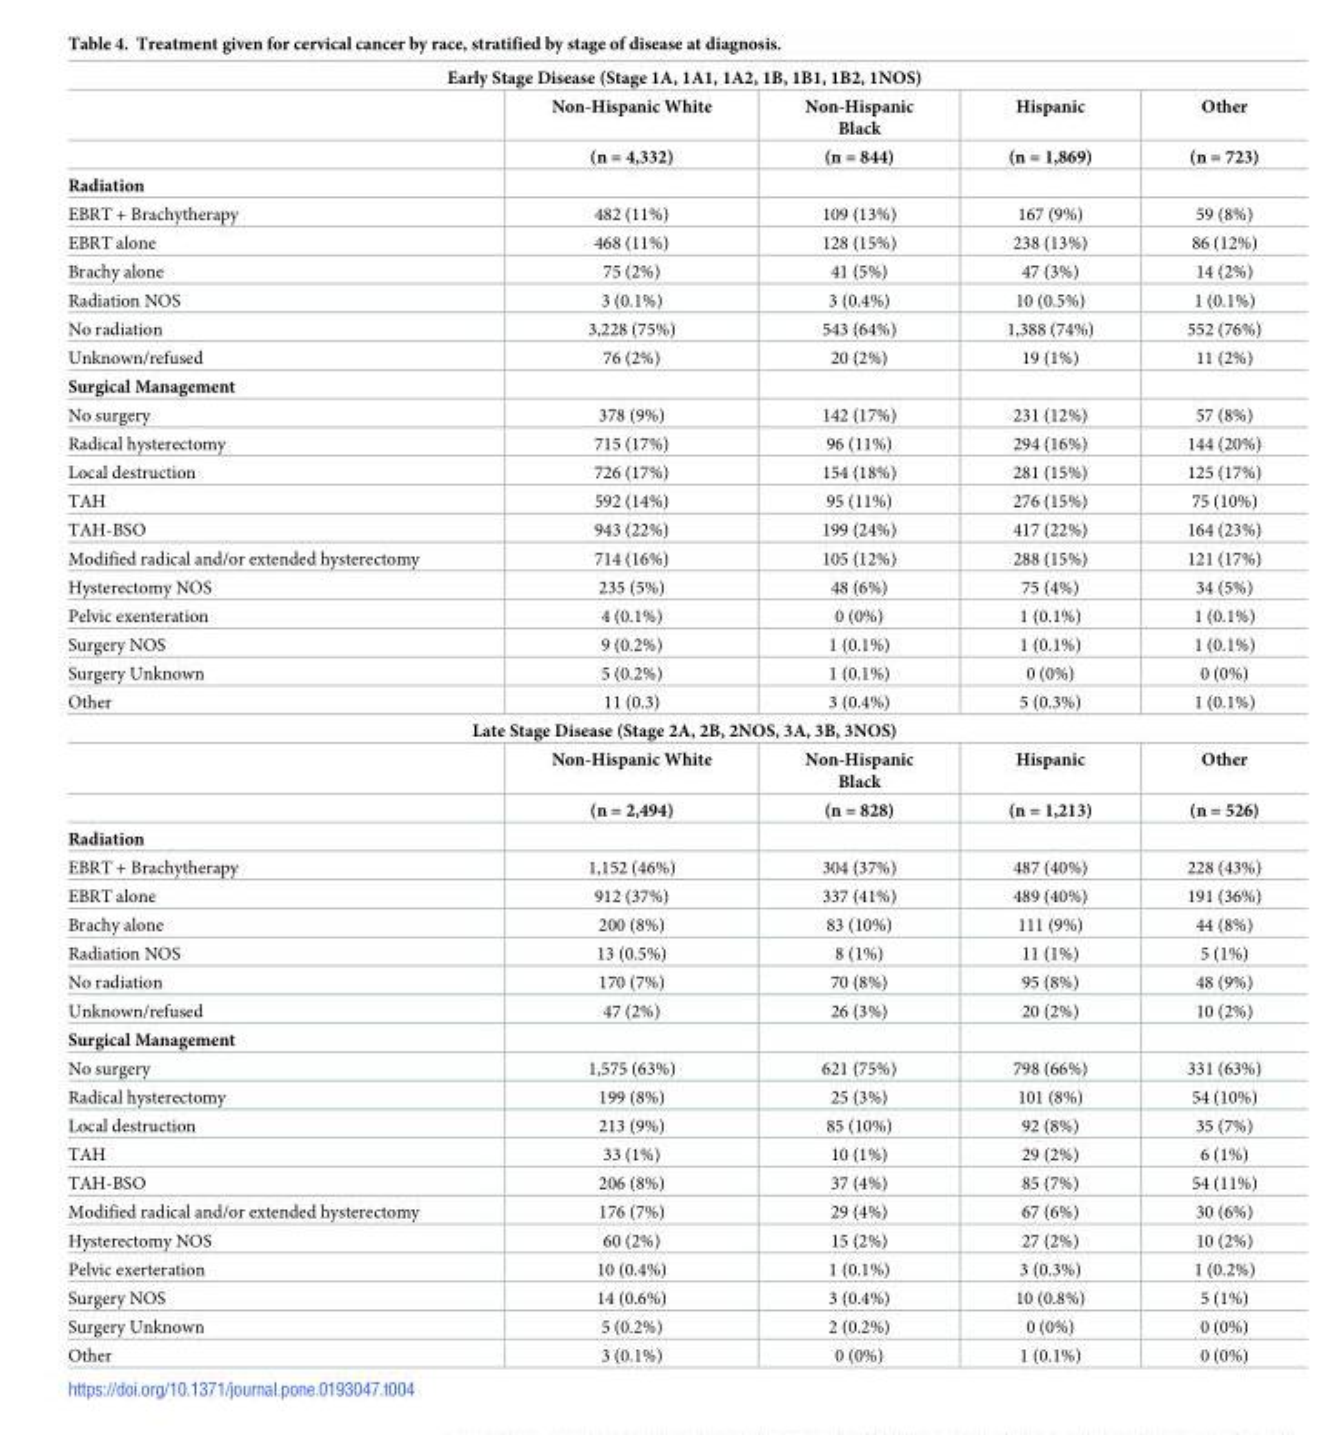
<table><tbody><tr><td colspan="5">Early Stage Disease (Stage 1A, 1A1, 1A2, 1B, 1B1, 1B2, 1NOS)</td></tr><tr><td></td><td>Non-Hispanic White</td><td>Non-Hispanic Black</td><td>Hispanic</td><td>Other</td></tr><tr><td></td><td>(n = 4,332)</td><td>(n = 844)</td><td>(n = 1,869)</td><td>(n = 723)</td></tr><tr><td colspan="5">Radiation</td></tr><tr><td>EBRT + Brachytherapy</td><td>482 (11%)</td><td>109 (13%)</td><td>167 (9%)</td><td>59 (8%)</td></tr><tr><td>EBRT alone</td><td>468 (11%)</td><td>128 (15%)</td><td>238 (13%)</td><td>86 (12%)</td></tr><tr><td>Brachy alone</td><td>75 (2%)</td><td>41 (5%)</td><td>47 (3%)</td><td>14 (2%)</td></tr><tr><td>Radiation NOS</td><td>3 (0.1%)</td><td>3 (0.4%)</td><td>10 (0.5%)</td><td>1 (0.1%)</td></tr><tr><td>No radiation</td><td>3,228 (75%)</td><td>543 (64%)</td><td>1,388 (74%)</td><td>552 (76%)</td></tr><tr><td>Unknown/refused</td><td>76 (2%)</td><td>20 (2%)</td><td>19 (1%)</td><td>11 (2%)</td></tr><tr><td colspan="5">Surgical Management</td></tr><tr><td>No surgery</td><td>378 (9%)</td><td>142 (17%)</td><td>231 (12%)</td><td>57 (8%)</td></tr><tr><td>Radical hysterectomy</td><td>715 (17%)</td><td>96 (11%)</td><td>294 (16%)</td><td>144 (20%)</td></tr><tr><td>Local destruction</td><td>726 (17%)</td><td>154 (18%)</td><td>281 (15%)</td><td>125 (17%)</td></tr><tr><td>TAH</td><td>592 (14%)</td><td>95 (11%)</td><td>276 (15%)</td><td>75 (10%)</td></tr><tr><td>TAH-BSO</td><td>943 (22%)</td><td>199 (24%)</td><td>417 (22%)</td><td>164 (23%)</td></tr><tr><td>Modified radical and/or extended hysterectomy</td><td>714 (16%)</td><td>105 (12%)</td><td>288 (15%)</td><td>121 (17%)</td></tr><tr><td>Hysterectomy NOS</td><td>235 (5%)</td><td>48 (6%)</td><td>75 (4%)</td><td>34 (5%)</td></tr><tr><td>Pelvic exenteration</td><td>4 (0.1%)</td><td>0 (0%)</td><td>1 (0.1%)</td><td>1 (0.1%)</td></tr><tr><td>Surgery NOS</td><td>9 (0.2%)</td><td>1 (0.1%)</td><td>1 (0.1%)</td><td>1 (0.1%)</td></tr><tr><td>Surgery Unknown</td><td>5 (0.2%)</td><td>1 (0.1%)</td><td>0 (0%)</td><td>0 (0%)</td></tr><tr><td>Other</td><td>11 (0.3)</td><td>3 (0.4%)</td><td>5 (0.3%)</td><td>1 (0.1%)</td></tr><tr><td colspan="5">Late Stage Disease (Stage 2A, 2B, 2NOS, 3A, 3B, 3NOS)</td></tr><tr><td></td><td>Non-Hispanic White</td><td>Non-Hispanic Black</td><td>Hispanic</td><td>Other</td></tr><tr><td></td><td>(n = 2,494)</td><td>(n = 828)</td><td>(n = 1,213)</td><td>(n = 526)</td></tr><tr><td colspan="5">Radiation</td></tr><tr><td>EBRT + Brachytherapy</td><td>1,152 (46%)</td><td>304 (37%)</td><td>487 (40%)</td><td>228 (43%)</td></tr><tr><td>EBRT alone</td><td>912 (37%)</td><td>337 (41%)</td><td>489 (40%)</td><td>191 (36%)</td></tr><tr><td>Brachy alone</td><td>200 (8%)</td><td>83 (10%)</td><td>111 (9%)</td><td>44 (8%)</td></tr><tr><td>Radiation NOS</td><td>13 (0.5%)</td><td>8 (1%)</td><td>11 (1%)</td><td>5 (1%)</td></tr><tr><td>No radiation</td><td>170 (7%)</td><td>70 (8%)</td><td>95 (8%)</td><td>48 (9%)</td></tr><tr><td>Unknown/refused</td><td>47 (2%)</td><td>26 (3%)</td><td>20 (2%)</td><td>10 (2%)</td></tr><tr><td colspan="5">Surgical Management</td></tr><tr><td>No surgery</td><td>1,575 (63%)</td><td>621 (75%)</td><td>798 (66%)</td><td>331 (63%)</td></tr><tr><td>Radical hysterectomy</td><td>199 (8%)</td><td>25 (3%)</td><td>101 (8%)</td><td>54 (10%)</td></tr><tr><td>Local destruction</td><td>213 (9%)</td><td>85 (10%)</td><td>92 (8%)</td><td>35 (7%)</td></tr><tr><td>TAH</td><td>33 (1%)</td><td>10 (1%)</td><td>29 (2%)</td><td>6 (1%)</td></tr><tr><td>TAH-BSO</td><td>206 (8%)</td><td>37 (4%)</td><td>85 (7%)</td><td>54 (11%)</td></tr><tr><td>Modified radical and/or extended hysterectomy</td><td>176 (7%)</td><td>29 (4%)</td><td>67 (6%)</td><td>30 (6%)</td></tr><tr><td>Hysterectomy NOS</td><td>60 (2%)</td><td>15 (2%)</td><td>27 (2%)</td><td>10 (2%)</td></tr><tr><td>Pelvic exerteration</td><td>10 (0.4%)</td><td>1 (0.1%)</td><td>3 (0.3%)</td><td>1 (0.2%)</td></tr><tr><td>Surgery NOS</td><td>14 (0.6%)</td><td>3 (0.4%)</td><td>10 (0.8%)</td><td>5 (1%)</td></tr><tr><td>Surgery Unknown</td><td>5 (0.2%)</td><td>2 (0.2%)</td><td>0 (0%)</td><td>0 (0%)</td></tr><tr><td>Other</td><td>3 (0.1%)</td><td>0 (0%)</td><td>1 (0.1%)</td><td>0 (0%)</td></tr></tbody></table>